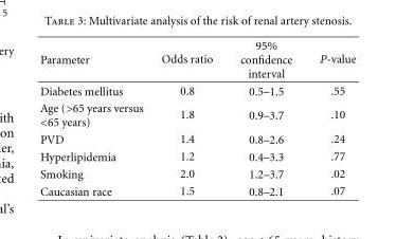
<table><thead><tr><td>Parameter</td><td>Odds ratio</td><td>95% confidence interval</td><td>P-value</td></tr></thead><tbody><tr><td>Diabetes mellitus</td><td>0.8</td><td>0.5–1.5</td><td>.55</td></tr><tr><td>Age (&gt;65 years versus &lt;65 years)</td><td>1.8</td><td>0.9–3.7</td><td>.10</td></tr><tr><td>PVD</td><td>1.4</td><td>0.8–2.6</td><td>.24</td></tr><tr><td>Hyperlipidemia</td><td>1.2</td><td>0.4–3.3</td><td>.77</td></tr><tr><td>Smoking</td><td>2.0</td><td>1.2–3.7</td><td>.02</td></tr><tr><td>Caucasian race</td><td>1.5</td><td>0.8–2.1</td><td>.07</td></tr></tbody></table>